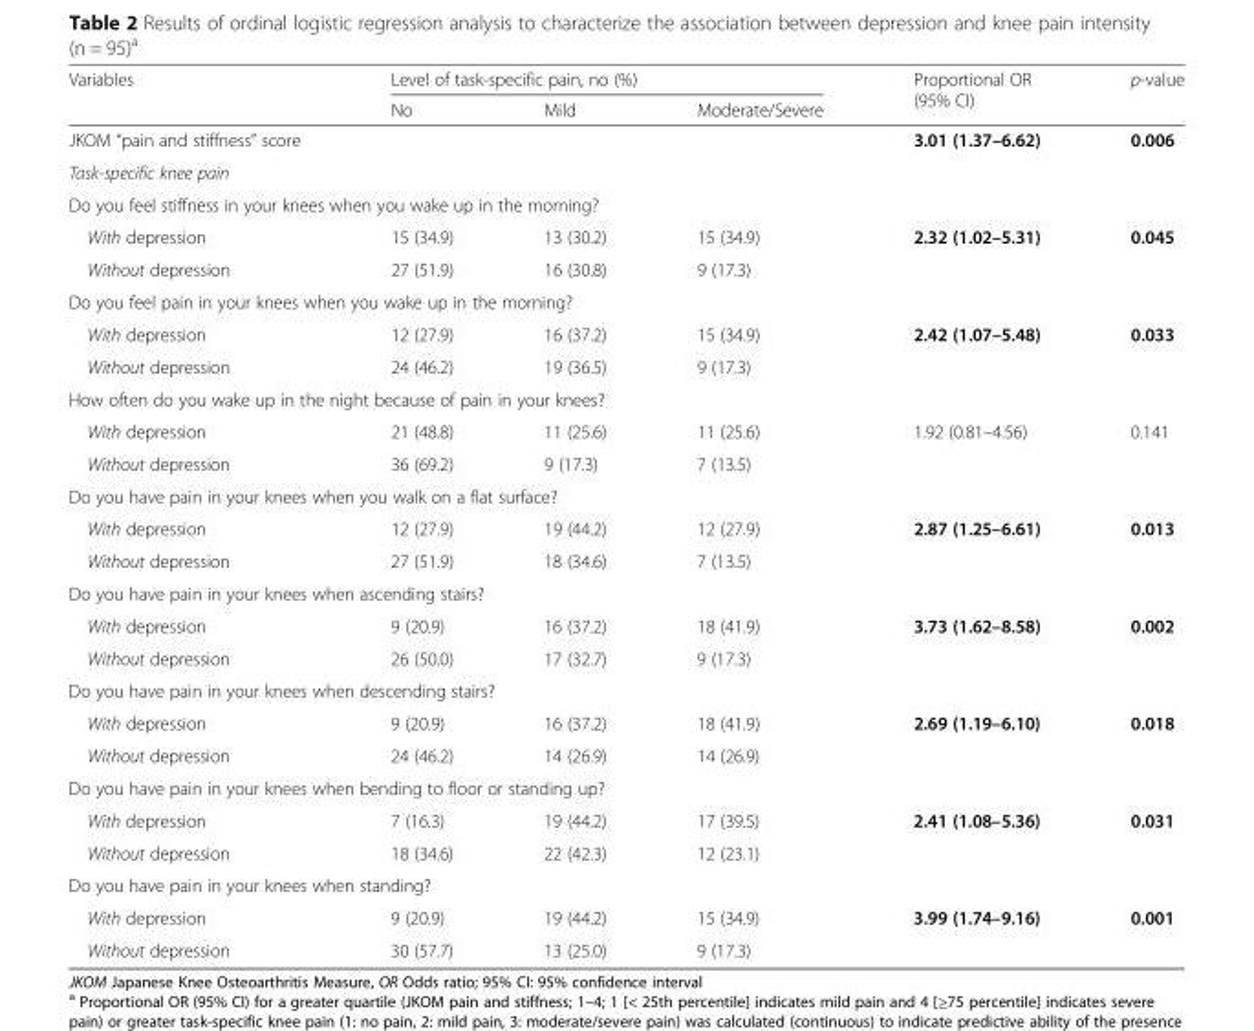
<table><thead><tr><td rowspan="2">Variables</td><td colspan="3">Level of task-specific pain, no (%)</td><td rowspan="2">Proportional OR (95% CI)</td><td rowspan="2">p-value</td></tr><tr><td>No</td><td>Mild</td><td>Moderate/Severe</td></tr></thead><tbody><tr><td>JKOM “pain and stiffness” score</td><td></td><td></td><td></td><td>3.01 (1.37–6.62)</td><td>0.006</td></tr><tr><td colspan="6">Task-specific knee pain</td></tr><tr><td colspan="6">Do you feel stiffness in your knees when you wake up in the morning?</td></tr><tr><td>With depression</td><td>15 (34.9)</td><td>13 (30.2)</td><td>15 (34.9)</td><td rowspan="2">2.32 (1.02–5.31)</td><td rowspan="2">0.045</td></tr><tr><td>Without depression</td><td>27 (51.9)</td><td>16 (30.8)</td><td>9 (17.3)</td></tr><tr><td colspan="6">Do you feel pain in your knees when you wake up in the morning?</td></tr><tr><td>With depression</td><td>12 (27.9)</td><td>16 (37.2)</td><td>15 (34.9)</td><td rowspan="2">2.42 (1.07–5.48)</td><td rowspan="2">0.033</td></tr><tr><td>Without depression</td><td>24 (46.2)</td><td>19 (36.5)</td><td>9 (17.3)</td></tr><tr><td colspan="6">How often do you wake up in the night because of pain in your knees?</td></tr><tr><td>With depression</td><td>21 (48.8)</td><td>11 (25.6)</td><td>11 (25.6)</td><td rowspan="2">1.92 (0.81–4.56)</td><td rowspan="2">0.141</td></tr><tr><td>Without depression</td><td>36 (69.2)</td><td>9 (17.3)</td><td>7 (13.5)</td></tr><tr><td colspan="6">Do you have pain in your knees when you walk on a flat surface?</td></tr><tr><td>With depression</td><td>12 (27.9)</td><td>19 (44.2)</td><td>12 (27.9)</td><td rowspan="2">2.87 (1.25–6.61)</td><td rowspan="2">0.013</td></tr><tr><td>Without depression</td><td>27 (51.9)</td><td>18 (34.6)</td><td>7 (13.5)</td></tr><tr><td colspan="6">Do you have pain in your knees when ascending stairs?</td></tr><tr><td>With depression</td><td>9 (20.9)</td><td>16 (37.2)</td><td>18 (41.9)</td><td rowspan="2">3.73 (1.62–8.58)</td><td rowspan="2">0.002</td></tr><tr><td>Without depression</td><td>26 (50.0)</td><td>17 (32.7)</td><td>9 (17.3)</td></tr><tr><td colspan="6">Do you have pain in your knees when descending stairs?</td></tr><tr><td>With depression</td><td>9 (20.9)</td><td>16 (37.2)</td><td>18 (41.9)</td><td rowspan="2">2.69 (1.19–6.10)</td><td rowspan="2">0.018</td></tr><tr><td>Without depression</td><td>24 (46.2)</td><td>14 (26.9)</td><td>14 (26.9)</td></tr><tr><td colspan="6">Do you have pain in your knees when bending to floor or standing up?</td></tr><tr><td>With depression</td><td>7 (16.3)</td><td>19 (44.2)</td><td>17 (39.5)</td><td rowspan="2">2.41 (1.08–5.36)</td><td rowspan="2">0.031</td></tr><tr><td>Without depression</td><td>18 (34.6)</td><td>22 (42.3)</td><td>12 (23.1)</td></tr><tr><td colspan="6">Do you have pain in your knees when standing?</td></tr><tr><td>With depression</td><td>9 (20.9)</td><td>19 (44.2)</td><td>15 (34.9)</td><td rowspan="2">3.99 (1.74–9.16)</td><td rowspan="2">0.001</td></tr><tr><td>Without depression</td><td>30 (57.7)</td><td>13 (25.0)</td><td>9 (17.3)</td></tr></tbody></table>